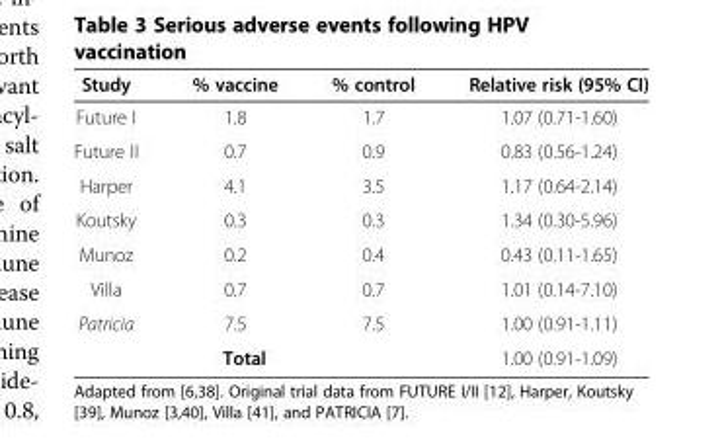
<table><thead><tr><td>Study</td><td>% vaccine</td><td>% control</td><td>Relative risk (95% CI)</td></tr></thead><tbody><tr><td>Future I</td><td>1.8</td><td>1.7</td><td>1.07 (0.71-1.60)</td></tr><tr><td>Future II</td><td>0.7</td><td>0.9</td><td>0.83 (0.56-1.24)</td></tr><tr><td>Harper</td><td>4.1</td><td>3.5</td><td>1.17 (0.64-2.14)</td></tr><tr><td>Koutsky</td><td>0.3</td><td>0.3</td><td>1.34 (0.30-5.96)</td></tr><tr><td>Munoz</td><td>0.2</td><td>0.4</td><td>0.43 (0.11-1.65)</td></tr><tr><td>Villa</td><td>0.7</td><td>0.7</td><td>1.01 (0.14-7.10)</td></tr><tr><td>Patricia</td><td>7.5</td><td>7.5</td><td>1.00 (0.91-1.11)</td></tr><tr><td colspan="3">Total</td><td>1.00 (0.91-1.09)</td></tr></tbody></table>